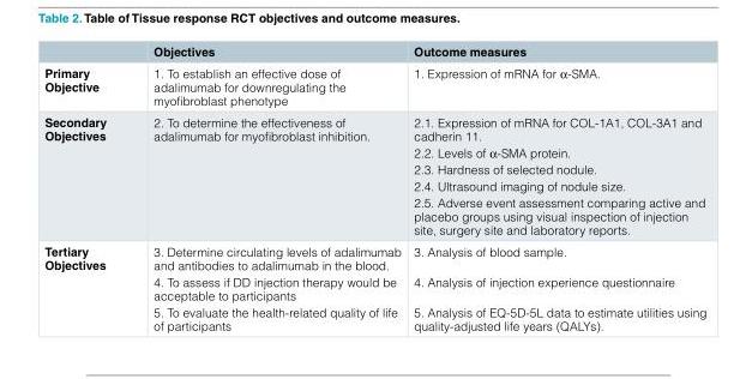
<table><thead><tr><td></td><td>Objectives</td><td>Outcome measures</td></tr></thead><tbody><tr><td>Primary Objective</td><td>1. To establish an effective dose of adalimumab for downregulating the myofibroblast phenotype</td><td>1. Expression of mRNA for α-SMA.</td></tr><tr><td>Secondary Objectives</td><td>2. To determine the effectiveness of adalimumab for myofibroblast inhibition.</td><td>2.1. Expression of mRNA for COL-1A1, COL-3A1 and cadherin 11. 2.2. Levels of α-SMA protein. 2.3. Hardness of selected nodule. 2.4. Ultrasound imaging of nodule size. 2.5. Adverse event assessment comparing active and placebo groups using visual inspection of injection site, surgery site and laboratory reports.</td></tr><tr><td>Tertiary Objectives</td><td>3. Determine circulating levels of adalimumab and antibodies to adalimumab in the blood. 4. To assess if DD injection therapy would be acceptable to participants 5. To evaluate the health-related quality of life of participants</td><td>3. Analysis of blood sample. 4. Analysis of injection experience questionnaire 5. Analysis of EQ-5D-5L data to estimate utilities using quality-adjusted life years (QALYs).</td></tr></tbody></table>